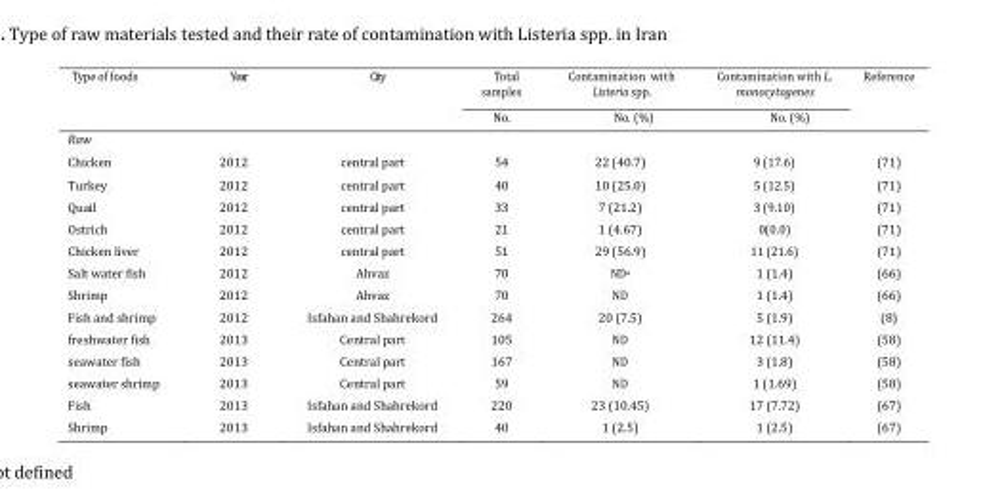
<table><thead><tr><td rowspan="2">Type of foods</td><td rowspan="2">Year</td><td rowspan="2">City</td><td rowspan="2">Total samples No.</td><td rowspan="2">Contamination with Listeria spp. No. (%)</td><td rowspan="2">Contamination with L. monocytogenes No. (%)</td><td rowspan="2">Reference</td></tr><tr></tr></thead><tbody><tr><td colspan="7">Raw</td></tr><tr><td>Chicken</td><td>2012</td><td>central part</td><td>54</td><td>22 (40.7)</td><td>9 (17.6)</td><td>(71)</td></tr><tr><td>Turkey</td><td>2012</td><td>central part</td><td>40</td><td>10 (25.0)</td><td>5 (12.5)</td><td>(71)</td></tr><tr><td>Quail</td><td>2012</td><td>central part</td><td>33</td><td>7 (21.2)</td><td>3 (9.10)</td><td>(71)</td></tr><tr><td>Ostrich</td><td>2012</td><td>central part</td><td>21</td><td>1 (4.67)</td><td>0(0.0)</td><td>(71)</td></tr><tr><td>Chicken liver</td><td>2012</td><td>central part</td><td>51</td><td>29 (56.9)</td><td>11 (21.6)</td><td>(71)</td></tr><tr><td>Salt water fish</td><td>2012</td><td>Ahvaz</td><td>70</td><td>ND<sup>a</sup></td><td>1 (1.4)</td><td>(66)</td></tr><tr><td>Shrimp</td><td>2012</td><td>Ahvaz</td><td>70</td><td>ND</td><td>1 (1.4)</td><td>(66)</td></tr><tr><td>Fish and shrimp</td><td>2012</td><td>Isfahan and Shahrekord</td><td>264</td><td>20 (7.5)</td><td>5 (1.9)</td><td>(8)</td></tr><tr><td>freshwater fish</td><td>2013</td><td>Central part</td><td>105</td><td>ND</td><td>12 (11.4)</td><td>(58)</td></tr><tr><td>seawater fish</td><td>2013</td><td>Central part</td><td>167</td><td>ND</td><td>3 (1.8)</td><td>(58)</td></tr><tr><td>seawater shrimp</td><td>2013</td><td>Central part</td><td>59</td><td>ND</td><td>1 (1.69)</td><td>(58)</td></tr><tr><td>Fish</td><td>2013</td><td>Isfahan and Shahrekord</td><td>220</td><td>23 (10.45)</td><td>17 (7.72)</td><td>(67)</td></tr><tr><td>Shrimp</td><td>2013</td><td>Isfahan and Shahrekord</td><td>40</td><td>1 (2.5)</td><td>1 (2.5)</td><td>(67)</td></tr></tbody></table>